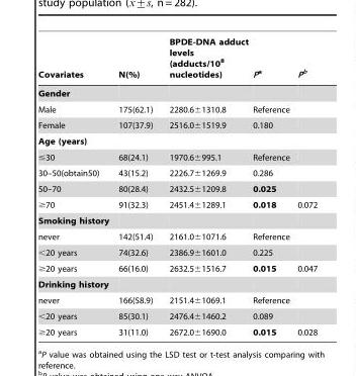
<table><thead><tr><td>Covariates</td><td>N(%)</td><td>BPDE-DNA adduct levels (adducts/10<sup>8</sup> nucleotides)</td><td>Pa</td><td>Pb</td></tr></thead><tbody><tr><td colspan="5">Gender</td></tr><tr><td>Male</td><td>175(62.1)</td><td>2280.6±1310.8</td><td>Reference</td><td></td></tr><tr><td>Female</td><td>107(37.9)</td><td>2516.0±1519.9</td><td>0.180</td><td></td></tr><tr><td colspan="5">Age (years)</td></tr><tr><td>≤30</td><td>68(24.1)</td><td>1970.6±995.1</td><td>Reference</td><td></td></tr><tr><td>30–50(obtain50)</td><td>43(15.2)</td><td>2226.7±1269.9</td><td>0.286</td><td></td></tr><tr><td>50–70</td><td>80(28.4)</td><td>2432.5±1209.8</td><td>0.025</td><td></td></tr><tr><td>≥70</td><td>91(32.3)</td><td>2451.4±1289.1</td><td>0.018</td><td>0.072</td></tr><tr><td colspan="5">Smoking history</td></tr><tr><td>never</td><td>142(51.4)</td><td>2161.0±1071.6</td><td>Reference</td><td></td></tr><tr><td>&lt;20 years</td><td>74(32.6)</td><td>2386.9±1601.0</td><td>0.225</td><td></td></tr><tr><td>≥20 years</td><td>66(16.0)</td><td>2632.5±1516.7</td><td>0.015</td><td>0.047</td></tr><tr><td colspan="5">Drinking history</td></tr><tr><td>never</td><td>166(58.9)</td><td>2151.4±1069.1</td><td>Reference</td><td></td></tr><tr><td>&lt;20 years</td><td>85(30.1)</td><td>2476.4±1460.2</td><td>0.089</td><td></td></tr><tr><td>≥20 years</td><td>31(11.0)</td><td>2672.0±1690.0</td><td>0.015</td><td>0.028</td></tr></tbody></table>